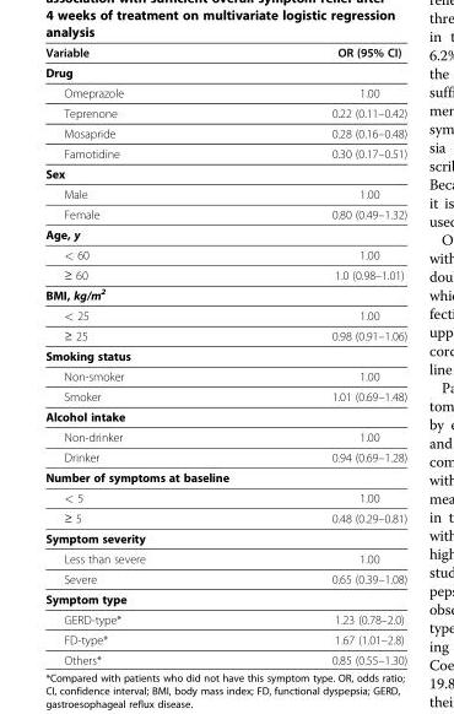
<table><thead><tr><td>Variable</td><td>OR (95% CI)</td></tr></thead><tbody><tr><td colspan="2">Drug</td></tr><tr><td>Omeprazole</td><td>1.00</td></tr><tr><td>Teprenone</td><td>0.22 (0.11–0.42)</td></tr><tr><td>Mosapride</td><td>0.28 (0.16–0.48)</td></tr><tr><td>Famotidine</td><td>0.30 (0.17–0.51)</td></tr><tr><td colspan="2">Sex</td></tr><tr><td>Male</td><td>1.00</td></tr><tr><td>Female</td><td>0.80 (0.49–1.32)</td></tr><tr><td colspan="2">Age, y</td></tr><tr><td>&lt; 60</td><td>1.00</td></tr><tr><td>≥ 60</td><td>1.0 (0.98–1.01)</td></tr><tr><td colspan="2">BMI, kg/m<sup>2</sup></td></tr><tr><td>&lt; 25</td><td>1.00</td></tr><tr><td>≥ 25</td><td>0.98 (0.91–1.06)</td></tr><tr><td colspan="2">Smoking status</td></tr><tr><td>Non-smoker</td><td>1.00</td></tr><tr><td>Smoker</td><td>1.01 (0.69–1.48)</td></tr><tr><td colspan="2">Alcohol intake</td></tr><tr><td>Non-drinker</td><td>1.00</td></tr><tr><td>Drinker</td><td>0.94 (0.69–1.28)</td></tr><tr><td colspan="2">Number of symptoms at baseline</td></tr><tr><td>&lt; 5</td><td>1.00</td></tr><tr><td>≥ 5</td><td>0.48 (0.29–0.81)</td></tr><tr><td colspan="2">Symptom severity</td></tr><tr><td>Less than severe</td><td>1.00</td></tr><tr><td>Severe</td><td>0.65 (0.39–1.08)</td></tr><tr><td colspan="2">Symptom type</td></tr><tr><td>GERD-type*</td><td>1.23 (0.78–2.0)</td></tr><tr><td>FD-type*</td><td>1.67 (1.01–2.8)</td></tr><tr><td>Others*</td><td>0.85 (0.55–1.30)</td></tr></tbody></table>